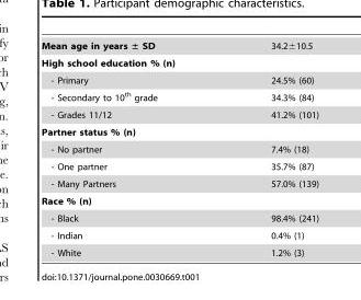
<table><tbody><tr><td>Mean age in years ± SD</td><td>34.2±10.5</td></tr><tr><td colspan="2">High school education % (n)</td></tr><tr><td>- Primary</td><td>24.5% (60)</td></tr><tr><td>- Secondary to 10<sup>th</sup> grade</td><td>34.3% (84)</td></tr><tr><td>- Grades 11/12</td><td>41.2% (101)</td></tr><tr><td colspan="2">Partner status % (n)</td></tr><tr><td>- No partner</td><td>7.4% (18)</td></tr><tr><td>- One partner</td><td>35.7% (87)</td></tr><tr><td>- Many Partners</td><td>57.0% (139)</td></tr><tr><td colspan="2">Race % (n)</td></tr><tr><td>- Black</td><td>98.4% (241)</td></tr><tr><td>- Indian</td><td>0.4% (1)</td></tr><tr><td>- White</td><td>1.2% (3)</td></tr></tbody></table>